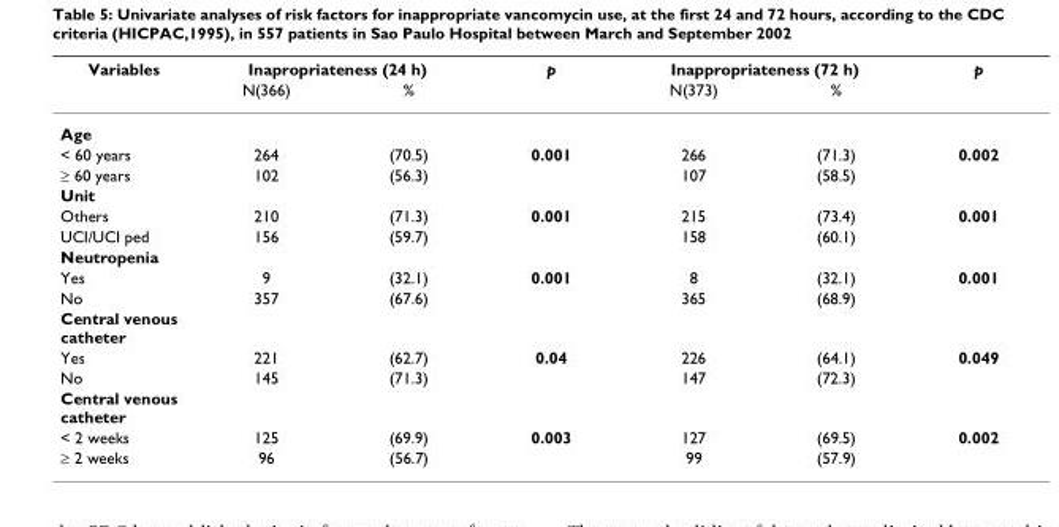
<table><thead><tr><td rowspan="2">Variables</td><td colspan="2">Inapropriateness (24 h)</td><td rowspan="2">p</td><td colspan="2">Inappropriateness (72 h)</td><td rowspan="2">p</td></tr><tr><td>N(366)</td><td>%</td><td>N(373)</td><td>%</td></tr></thead><tbody><tr><td colspan="7">Age</td></tr><tr><td>&lt; 60 years</td><td>264</td><td>(70.5)</td><td>0.001</td><td>266</td><td>(71.3)</td><td>0.002</td></tr><tr><td>≥ 60 years</td><td>102</td><td>(56.3)</td><td></td><td>107</td><td>(58.5)</td><td></td></tr><tr><td colspan="7">Unit</td></tr><tr><td>Others</td><td>210</td><td>(71.3)</td><td>0.001</td><td>215</td><td>(73.4)</td><td>0.001</td></tr><tr><td>UCI/UCI ped</td><td>156</td><td>(59.7)</td><td></td><td>158</td><td>(60.1)</td><td></td></tr><tr><td colspan="7">Neutropenia</td></tr><tr><td>Yes</td><td>9</td><td>(32.1)</td><td>0.001</td><td>8</td><td>(32.1)</td><td>0.001</td></tr><tr><td>No</td><td>357</td><td>(67.6)</td><td></td><td>365</td><td>(68.9)</td><td></td></tr><tr><td colspan="7">Central venous catheter</td></tr><tr><td>Yes</td><td>221</td><td>(62.7)</td><td>0.04</td><td>226</td><td>(64.1)</td><td>0.049</td></tr><tr><td>No</td><td>145</td><td>(71.3)</td><td></td><td>147</td><td>(72.3)</td><td></td></tr><tr><td colspan="7">Central venous catheter</td></tr><tr><td>&lt; 2 weeks</td><td>125</td><td>(69.9)</td><td>0.003</td><td>127</td><td>(69.5)</td><td>0.002</td></tr><tr><td>≥ 2 weeks</td><td>96</td><td>(56.7)</td><td></td><td>99</td><td>(57.9)</td><td></td></tr></tbody></table>